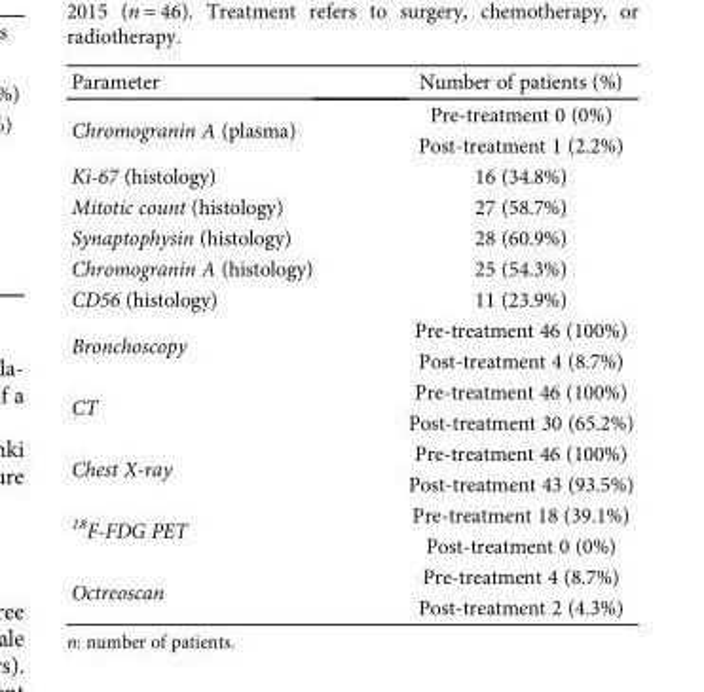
<table><thead><tr><td>Parameter</td><td>Number of patients (%)</td></tr></thead><tbody><tr><td rowspan="2">Chromogranin A (plasma)</td><td>Pre-treatment 0 (0%)</td></tr><tr><td>Post-treatment 1 (2.2%)</td></tr><tr><td>Ki-67 (histology)</td><td>16 (34.8%)</td></tr><tr><td>Mitotic count (histology)</td><td>27 (58.7%)</td></tr><tr><td>Synaptophysin (histology)</td><td>28 (60.9%)</td></tr><tr><td>Chromogranin A (histology)</td><td>25 (54.3%)</td></tr><tr><td>CD56 (histology)</td><td>11 (23.9%)</td></tr><tr><td rowspan="2">Bronchoscopy</td><td>Pre-treatment 46 (100%)</td></tr><tr><td>Post-treatment 4 (8.7%)</td></tr><tr><td rowspan="2">CT</td><td>Pre-treatment 46 (100%)</td></tr><tr><td>Post-treatment 30 (65.2%)</td></tr><tr><td rowspan="2">Chest X-ray</td><td>Pre-treatment 46 (100%)</td></tr><tr><td>Post-treatment 43 (93.5%)</td></tr><tr><td rowspan="2"><sup>18</sup>F-FDG PET</td><td>Pre-treatment 18 (39.1%)</td></tr><tr><td>Post-treatment 0 (0%)</td></tr><tr><td rowspan="2">Octreoscan</td><td>Pre-treatment 4 (8.7%)</td></tr><tr><td>Post-treatment 2 (4.3%)</td></tr></tbody></table>